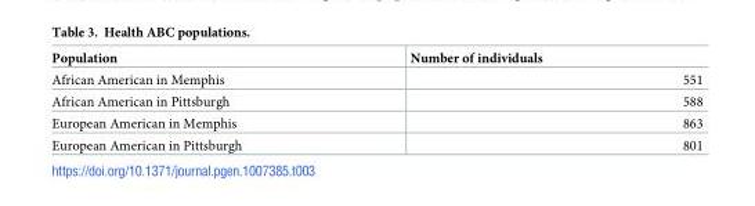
<table><thead><tr><td>Population</td><td>Number of individuals</td></tr></thead><tbody><tr><td>African American in Memphis</td><td>551</td></tr><tr><td>African American in Pittsburgh</td><td>588</td></tr><tr><td>European American in Memphis</td><td>863</td></tr><tr><td>European American in Pittsburgh</td><td>801</td></tr></tbody></table>